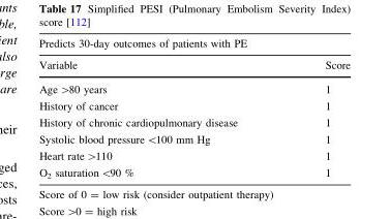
<table><thead><tr><td colspan="2">Predicts 30-day outcomes of patients with PE</td></tr><tr><td>Variable</td><td>Score</td></tr></thead><tbody><tr><td>Age &gt;80 years</td><td>1</td></tr><tr><td>History of cancer</td><td>1</td></tr><tr><td>History of chronic cardiopulmonary disease</td><td>1</td></tr><tr><td>Systolic blood pressure &lt;100 mm Hg</td><td>1</td></tr><tr><td>Heart rate &gt;110</td><td>1</td></tr><tr><td>O<sub>2</sub> saturation &lt;90 %</td><td>1</td></tr></tbody></table>